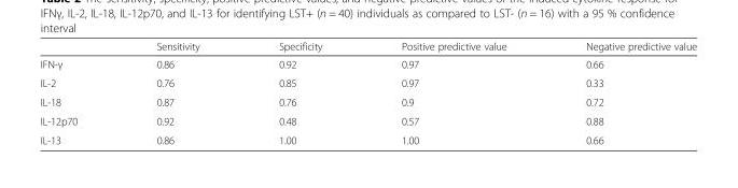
<table><thead><tr><td></td><td>Sensitivity</td><td>Specificity</td><td>Positive predictive value</td><td>Negative predictive value</td></tr></thead><tbody><tr><td>IFN-γ</td><td>0.86</td><td>0.92</td><td>0.97</td><td>0.66</td></tr><tr><td>IL-2</td><td>0.76</td><td>0.85</td><td>0.97</td><td>0.33</td></tr><tr><td>IL-18</td><td>0.87</td><td>0.76</td><td>0.9</td><td>0.72</td></tr><tr><td>IL-12p70</td><td>0.92</td><td>0.48</td><td>0.57</td><td>0.88</td></tr><tr><td>IL-13</td><td>0.86</td><td>1.00</td><td>1.00</td><td>0.66</td></tr></tbody></table>